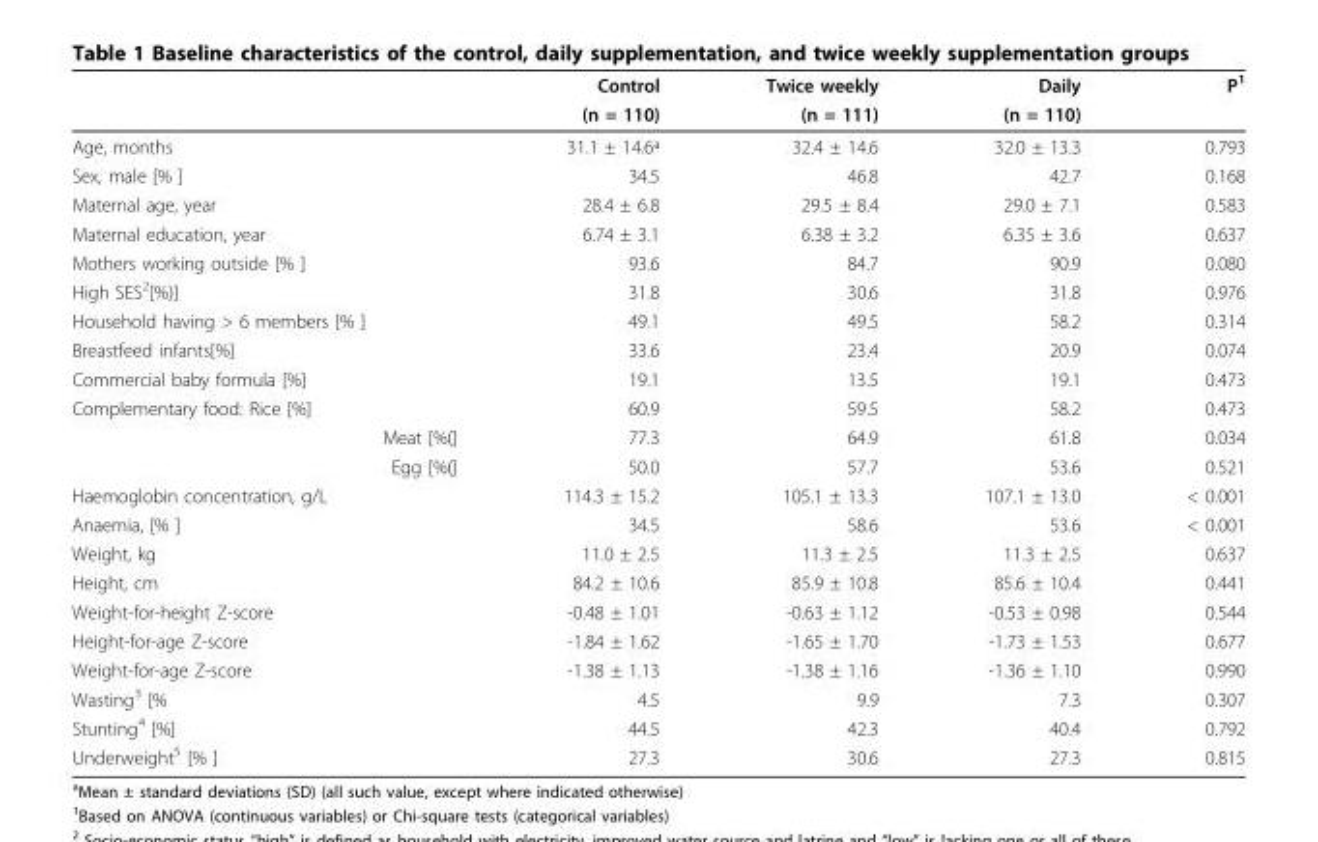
<table><thead><tr><td rowspan="2"></td><td rowspan="2">Control (n = 110)</td><td rowspan="2">Twice weekly (n = 111)</td><td rowspan="2">Daily (n = 110)</td><td rowspan="2">P<sup>1</sup></td></tr><tr></tr></thead><tbody><tr><td>Age, months</td><td>31.1 ± 14.6ª</td><td>32.4 ± 14.6</td><td>32.0 ± 13.3</td><td>0.793</td></tr><tr><td>Sex, male [% ]</td><td>34.5</td><td>46.8</td><td>42.7</td><td>0.168</td></tr><tr><td>Maternal age, year</td><td>28.4 ± 6.8</td><td>29.5 ± 8.4</td><td>29.0 ± 7.1</td><td>0.583</td></tr><tr><td>Maternal education, year</td><td>6.74 ± 3.1</td><td>6.38 ± 3.2</td><td>6.35 ± 3.6</td><td>0.637</td></tr><tr><td>Mothers working outside [% ]</td><td>93.6</td><td>84.7</td><td>90.9</td><td>0.080</td></tr><tr><td>High SES<sup>2</sup>[%)]</td><td>31.8</td><td>30.6</td><td>31.8</td><td>0.976</td></tr><tr><td>Household having &gt; 6 members [% ]</td><td>49.1</td><td>49.5</td><td>58.2</td><td>0.314</td></tr><tr><td>Breastfeed infants[%]</td><td>33.6</td><td>23.4</td><td>20.9</td><td>0.074</td></tr><tr><td>Commercial baby formula [%]</td><td>19.1</td><td>13.5</td><td>19.1</td><td>0.473</td></tr><tr><td>Complementary food: Rice [%]</td><td>60.9</td><td>59.5</td><td>58.2</td><td>0.473</td></tr><tr><td>Meat [%(]</td><td>77.3</td><td>64.9</td><td>61.8</td><td>0.034</td></tr><tr><td>Egg [%(]</td><td>50.0</td><td>57.7</td><td>53.6</td><td>0.521</td></tr><tr><td>Haemoglobin concentration, g/L</td><td>114.3 ± 15.2</td><td>105.1 ± 13.3</td><td>107.1 ± 13.0</td><td>&lt; 0.001</td></tr><tr><td>Anaemia, [% ]</td><td>34.5</td><td>58.6</td><td>53.6</td><td>&lt; 0.001</td></tr><tr><td>Weight, kg</td><td>11.0 ± 2.5</td><td>11.3 ± 2.5</td><td>11.3 ± 2.5</td><td>0.637</td></tr><tr><td>Height, cm</td><td>84.2 ± 10.6</td><td>85.9 ± 10.8</td><td>85.6 ± 10.4</td><td>0.441</td></tr><tr><td>Weight-for-height Z-score</td><td>-0.48 ± 1.01</td><td>-0.63 ± 1.12</td><td>-0.53 ± 0.98</td><td>0.544</td></tr><tr><td>Height-for-age Z-score</td><td>-1.84 ± 1.62</td><td>-1.65 ± 1.70</td><td>-1.73 ± 1.53</td><td>0.677</td></tr><tr><td>Weight-for-age Z-score</td><td>-1.38 ± 1.13</td><td>-1.38 ± 1.16</td><td>-1.36 ± 1.10</td><td>0.990</td></tr><tr><td>Wasting<sup>3</sup> [%</td><td>4.5</td><td>9.9</td><td>7.3</td><td>0.307</td></tr><tr><td>Stunting<sup>4</sup> [%]</td><td>44.5</td><td>42.3</td><td>40.4</td><td>0.792</td></tr><tr><td>Underweight<sup>5</sup> [% ]</td><td>27.3</td><td>30.6</td><td>27.3</td><td>0.815</td></tr></tbody></table>